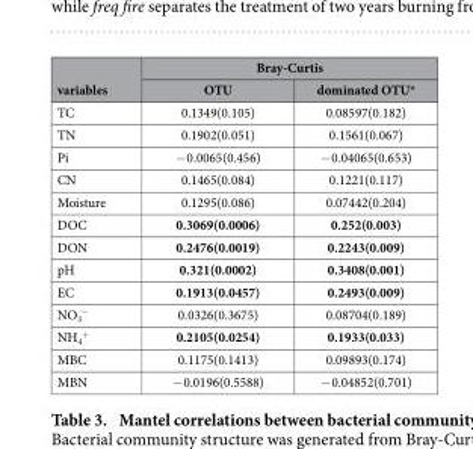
<table><thead><tr><td rowspan="2">variables</td><td colspan="2">Bray-Curtis</td></tr><tr><td>OTU</td><td>dominated OTU*</td></tr></thead><tbody><tr><td>TC</td><td>0.1349(0.105)</td><td>0.08597(0.182)</td></tr><tr><td>TN</td><td>0.1902(0.051)</td><td>0.1561(0.067)</td></tr><tr><td>Pi</td><td>− 0.0065(0.456)</td><td>− 0.04065(0.653)</td></tr><tr><td>CN</td><td>0.1465(0.084)</td><td>0.1221(0.117)</td></tr><tr><td>Moisture</td><td>0.1295(0.086)</td><td>0.07442(0.204)</td></tr><tr><td>DOC</td><td>0.3069(0.0006)</td><td>0.252(0.003)</td></tr><tr><td>DON</td><td>0.2476(0.0019)</td><td>0.2243(0.009)</td></tr><tr><td>pH</td><td>0.321(0.0002)</td><td>0.3408(0.001)</td></tr><tr><td>EC</td><td>0.1913(0.0457)</td><td>0.2493(0.009)</td></tr><tr><td>NO<sub>3</sub> <sup>−</sup></td><td>0.0326(0.3675)</td><td>0.08704(0.189)</td></tr><tr><td>NH<sub>4</sub> <sup>+</sup></td><td>0.2105(0.0254)</td><td>0.1933(0.033)</td></tr><tr><td>MBC</td><td>0.1175(0.1413)</td><td>0.09893(0.174)</td></tr><tr><td>MBN</td><td>− 0.0196(0.5588)</td><td>− 0.04852(0.701)</td></tr></tbody></table>